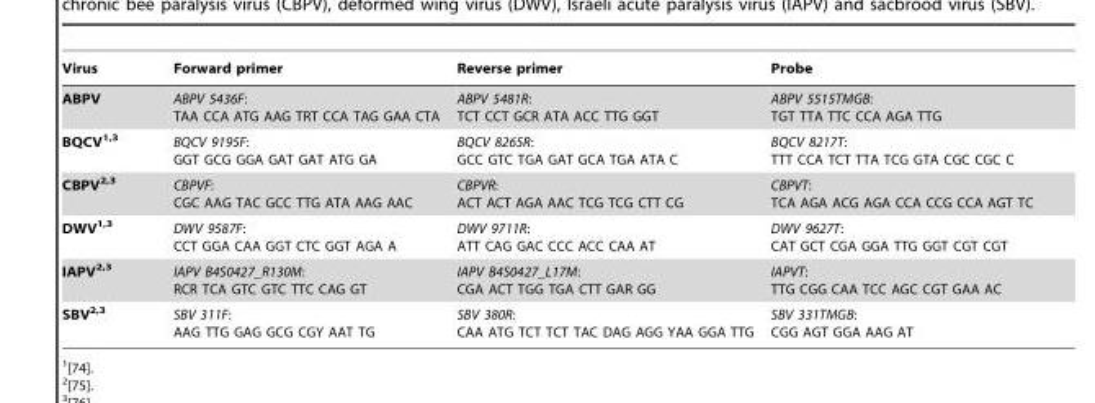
<table><thead><tr><td>Virus</td><td>Forward primer</td><td>Reverse primer</td><td>Probe</td></tr></thead><tbody><tr><td>ABPV</td><td>ABPV 5436F: TAA CCA ATG AAG TRT CCA TAG GAA CTA</td><td>ABPV 5481R: TCT CCT GCR ATA ACC TTG GGT</td><td>ABPV 5515TMGB: TGT TTA TTC CCA AGA TTG</td></tr><tr><td>BQCV1,3</td><td>BQCV 9195F: GGT GCG GGA GAT GAT ATG GA</td><td>BQCV 8265R: GCC GTC TGA GAT GCA TGA ATA C</td><td>BQCV 8217T: TTT CCA TCT TTA TCG GTA CGC CGC C</td></tr><tr><td>CBPV2<sup>,</sup>3</td><td>CBPVF: CGC AAG TAC GCC TTG ATA AAG AAC</td><td>CBPVR: ACT ACT AGA AAC TCG TCG CTT CG</td><td>CBPVT: TCA AGA ACG AGA CCA CCG CCA AGT TC</td></tr><tr><td>DWV1<sup>,</sup>3</td><td>DWV 9587F: CCT GGA CAA GGT CTC GGT AGA A</td><td>DWV 9711R: ATT CAG GAC CCC ACC CAA AT</td><td>DWV 9627T: CAT GCT CGA GGA TTG GGT CGT CGT</td></tr><tr><td>IAPV2<sup>,</sup>3</td><td>IAPV B4S0427_R130M: RCR TCA GTC GTC TTC CAG GT</td><td>IAPV B4S0427_L17M: CGA ACT TGG TGA CTT GAR GG</td><td>IAPVT: TTG CGG CAA TCC AGC CGT GAA AC</td></tr><tr><td>SBV2<sup>,</sup>3</td><td>SBV 311F: AAG TTG GAG GCG CGY AAT TG</td><td>SBV 380R: CAA ATG TCT TCT TAC DAG AGG YAA GGA TTG</td><td>SBV 331TMGB: CGG AGT GGA AAG AT</td></tr></tbody></table>